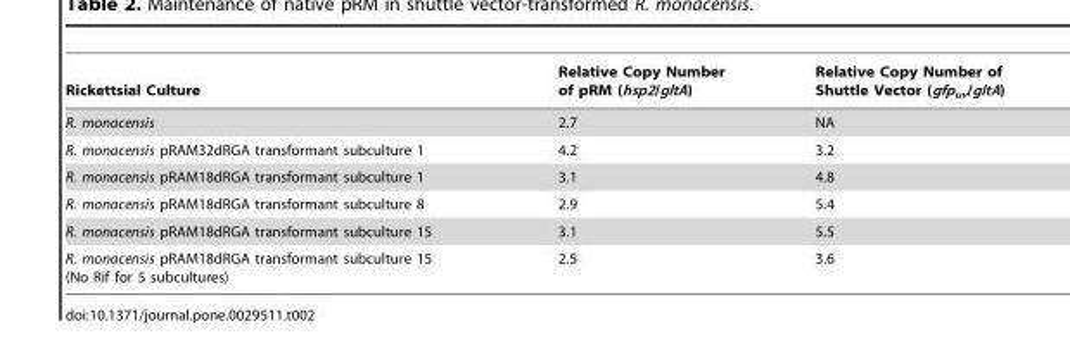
<table><thead><tr><td>Rickettsial Culture</td><td>Relative Copy Number of pRM (hsp2/gltA)</td><td>Relative Copy Number of Shuttle Vector (gfp<sub>uv</sub>/gltA)</td></tr></thead><tbody><tr><td>R. monacensis</td><td>2.7</td><td>NA</td></tr><tr><td>R. monacensis pRAM32dRGA transformant subculture 1</td><td>4.2</td><td>3.2</td></tr><tr><td>R. monacensis pRAM18dRGA transformant subculture 1</td><td>3.1</td><td>4.8</td></tr><tr><td>R. monacensis pRAM18dRGA transformant subculture 8</td><td>2.9</td><td>5.4</td></tr><tr><td>R. monacensis pRAM18dRGA transformant subculture 15</td><td>3.1</td><td>5.5</td></tr><tr><td>R. monacensis pRAM18dRGA transformant subculture 15 (No Rif for 5 subcultures)</td><td>2.5</td><td>3.6</td></tr></tbody></table>